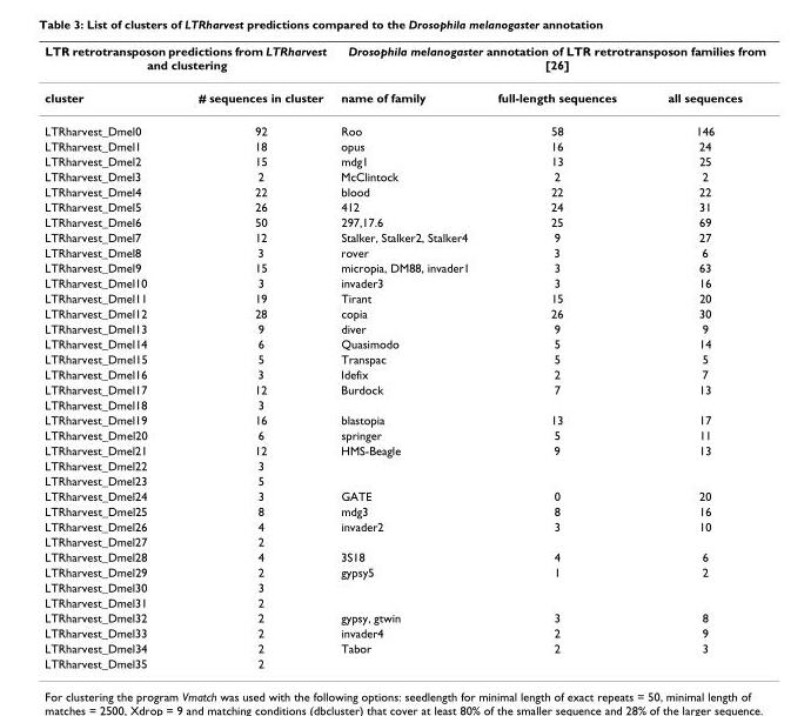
<table><thead><tr><td colspan="2">LTR retrotransposon predictions from LTRharvest and clustering</td><td colspan="3">Drosophila melanogaster annotation of LTR retrotransposon families from [26]</td></tr><tr><td>cluster</td><td># sequences in cluster</td><td>name of family</td><td>full-length sequences</td><td>all sequences</td></tr></thead><tbody><tr><td>LTRharvest_Dmel0</td><td>92</td><td>Roo</td><td>58</td><td>146</td></tr><tr><td>LTRharvest_Dmel1</td><td>18</td><td>opus</td><td>16</td><td>24</td></tr><tr><td>LTRharvest_Dmel2</td><td>15</td><td>mdg1</td><td>13</td><td>25</td></tr><tr><td>LTRharvest_Dmel3</td><td>2</td><td>McClintock</td><td>2</td><td>2</td></tr><tr><td>LTRharvest_Dmel4</td><td>22</td><td>blood</td><td>22</td><td>22</td></tr><tr><td>LTRharvest_Dmel5</td><td>26</td><td>412</td><td>24</td><td>31</td></tr><tr><td>LTRharvest_Dmel6</td><td>50</td><td>297,17.6</td><td>25</td><td>69</td></tr><tr><td>LTRharvest_Dmel7</td><td>12</td><td>Stalker, Stalker2, Stalker4</td><td>9</td><td>27</td></tr><tr><td>LTRharvest_Dmel8</td><td>3</td><td>rover</td><td>3</td><td>6</td></tr><tr><td>LTRharvest_Dmel9</td><td>15</td><td>micropia, DM88, invader1</td><td>3</td><td>63</td></tr><tr><td>LTRharvest_Dmel10</td><td>3</td><td>invader3</td><td>3</td><td>16</td></tr><tr><td>LTRharvest_Dmel11</td><td>19</td><td>Tirant</td><td>15</td><td>20</td></tr><tr><td>LTRharvest_Dmel12</td><td>28</td><td>copia</td><td>26</td><td>30</td></tr><tr><td>LTRharvest_Dmel13</td><td>9</td><td>diver</td><td>9</td><td>9</td></tr><tr><td>LTRharvest_Dmel14</td><td>6</td><td>Quasimodo</td><td>5</td><td>14</td></tr><tr><td>LTRharvest_Dmel15</td><td>5</td><td>Transpac</td><td>5</td><td>5</td></tr><tr><td>LTRharvest_Dmel16</td><td>3</td><td>Idefix</td><td>2</td><td>7</td></tr><tr><td>LTRharvest_Dmel17</td><td>12</td><td>Burdock</td><td>7</td><td>13</td></tr><tr><td>LTRharvest_Dmel18</td><td>3</td><td></td><td></td><td></td></tr><tr><td>LTRharvest_Dmel19</td><td>16</td><td>blastopia</td><td>13</td><td>17</td></tr><tr><td>LTRharvest_Dmel20</td><td>6</td><td>springer</td><td>5</td><td>11</td></tr><tr><td>LTRharvest_Dmel21</td><td>12</td><td>HMS-Beagle</td><td>9</td><td>13</td></tr><tr><td>LTRharvest_Dmel22</td><td>3</td><td></td><td></td><td></td></tr><tr><td>LTRharvest_Dmel23</td><td>5</td><td></td><td></td><td></td></tr><tr><td>LTRharvest_Dmel24</td><td>3</td><td>GATE</td><td>0</td><td>20</td></tr><tr><td>LTRharvest_Dmel25</td><td>8</td><td>mdg3</td><td>8</td><td>16</td></tr><tr><td>LTRharvest_Dmel26</td><td>4</td><td>invader2</td><td>3</td><td>10</td></tr><tr><td>LTRharvest_Dmel27</td><td>2</td><td></td><td></td><td></td></tr><tr><td>LTRharvest_Dmel28</td><td>4</td><td>3S18</td><td>4</td><td>6</td></tr><tr><td>LTRharvest_Dmel29</td><td>2</td><td>gypsy5</td><td>1</td><td>2</td></tr><tr><td>LTRharvest_Dmel30</td><td>3</td><td></td><td></td><td></td></tr><tr><td>LTRharvest_Dmel31</td><td>2</td><td></td><td></td><td></td></tr><tr><td>LTRharvest_Dmel32</td><td>2</td><td>gypsy, gtwin</td><td>3</td><td>8</td></tr><tr><td>LTRharvest_Dmel33</td><td>2</td><td>invader4</td><td>2</td><td>9</td></tr><tr><td>LTRharvest_Dmel34</td><td>2</td><td>Tabor</td><td>2</td><td>3</td></tr><tr><td>LTRharvest_Dmel35</td><td>2</td><td></td><td></td><td></td></tr></tbody></table>